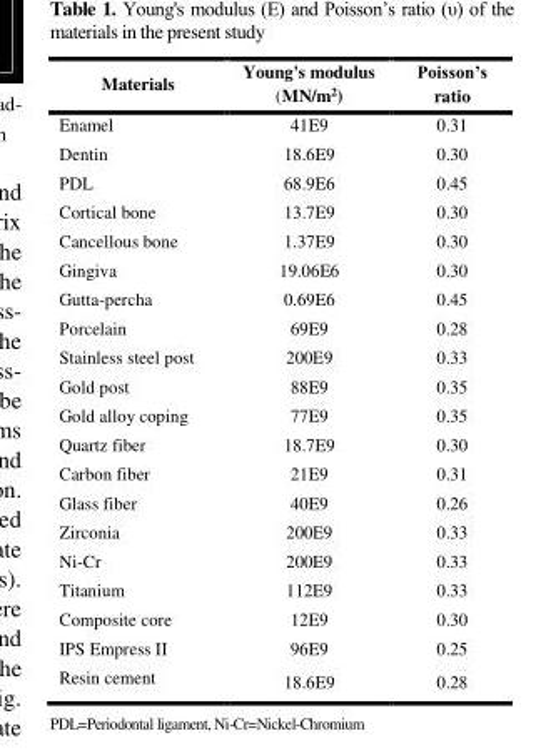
<table><thead><tr><td>Materials</td><td>Young&#x27;s modulus (MN/m<sup>2</sup>)</td><td>Poisson’s ratio</td></tr></thead><tbody><tr><td>Enamel</td><td>41E9</td><td>0.31</td></tr><tr><td>Dentin</td><td>18.6E9</td><td>0.30</td></tr><tr><td>PDL</td><td>68.9E6</td><td>0.45</td></tr><tr><td>Cortical bone</td><td>13.7E9</td><td>0.30</td></tr><tr><td>Cancellous bone</td><td>1.37E9</td><td>0.30</td></tr><tr><td>Gingiva</td><td>19.06E6</td><td>0.30</td></tr><tr><td>Gutta-percha</td><td>0.69E6</td><td>0.45</td></tr><tr><td>Porcelain</td><td>69E9</td><td>0.28</td></tr><tr><td>Stainless steel post</td><td>200E9</td><td>0.33</td></tr><tr><td>Gold post</td><td>88E9</td><td>0.35</td></tr><tr><td>Gold alloy coping</td><td>77E9</td><td>0.35</td></tr><tr><td>Quartz fiber</td><td>18.7E9</td><td>0.30</td></tr><tr><td>Carbon fiber</td><td>21E9</td><td>0.31</td></tr><tr><td>Glass fiber</td><td>40E9</td><td>0.26</td></tr><tr><td>Zirconia</td><td>200E9</td><td>0.33</td></tr><tr><td>Ni-Cr</td><td>200E9</td><td>0.33</td></tr><tr><td>Titanium</td><td>112E9</td><td>0.33</td></tr><tr><td>Composite core</td><td>12E9</td><td>0.30</td></tr><tr><td>IPS Empress II</td><td>96E9</td><td>0.25</td></tr><tr><td>Resin cement</td><td>18.6E9</td><td>0.28</td></tr></tbody></table>